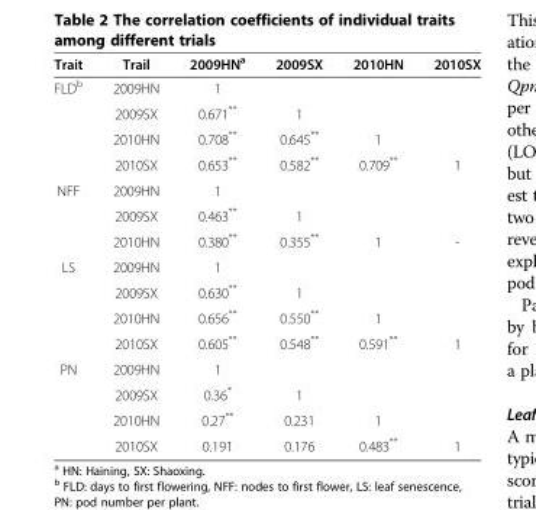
<table><thead><tr><td>Trait</td><td>Trail</td><td>2009HN<sup>a</sup></td><td>2009SX</td><td>2010HN</td><td>2010SX</td></tr></thead><tbody><tr><td rowspan="4">FLD<sup>b</sup></td><td>2009HN</td><td>1</td><td></td><td></td><td></td></tr><tr><td>2009SX</td><td>0.671**</td><td>1</td><td></td><td></td></tr><tr><td>2010HN</td><td>0.708**</td><td>0.645**</td><td>1</td><td></td></tr><tr><td>2010SX</td><td>0.653**</td><td>0.582**</td><td>0.709**</td><td>1</td></tr><tr><td rowspan="3">NFF</td><td>2009HN</td><td>1</td><td></td><td></td><td></td></tr><tr><td>2009SX</td><td>0.463**</td><td>1</td><td></td><td></td></tr><tr><td>2010HN</td><td>0.380**</td><td>0.355**</td><td>1</td><td>-</td></tr><tr><td rowspan="4">LS</td><td>2009HN</td><td>1</td><td></td><td></td><td></td></tr><tr><td>2009SX</td><td>0.630**</td><td>1</td><td></td><td></td></tr><tr><td>2010HN</td><td>0.656**</td><td>0.550**</td><td>1</td><td></td></tr><tr><td>2010SX</td><td>0.605**</td><td>0.548**</td><td>0.591**</td><td>1</td></tr><tr><td rowspan="4">PN</td><td>2009HN</td><td>1</td><td></td><td></td><td></td></tr><tr><td>2009SX</td><td>0.36*</td><td>1</td><td></td><td></td></tr><tr><td>2010HN</td><td>0.27**</td><td>0.231</td><td>1</td><td></td></tr><tr><td>2010SX</td><td>0.191</td><td>0.176</td><td>0.483**</td><td>1</td></tr></tbody></table>